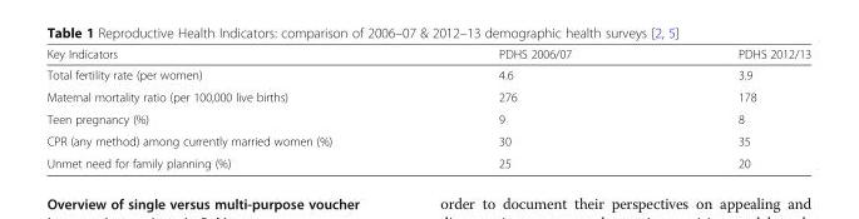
<table><thead><tr><td>Key Indicators</td><td>PDHS 2006/07</td><td>PDHS 2012/13</td></tr></thead><tbody><tr><td>Total fertility rate (per women)</td><td>4.6</td><td>3.9</td></tr><tr><td>Maternal mortality ratio (per 100,000 live births)</td><td>276</td><td>178</td></tr><tr><td>Teen pregnancy (%)</td><td>9</td><td>8</td></tr><tr><td>CPR (any method) among currently married women (%)</td><td>30</td><td>35</td></tr><tr><td>Unmet need for family planning (%)</td><td>25</td><td>20</td></tr></tbody></table>